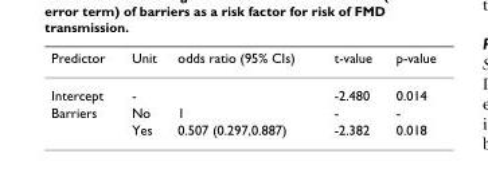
<table><thead><tr><td>Predictor</td><td>Unit</td><td>odds ratio (95% CIs)</td><td>t-value</td><td>p-value</td></tr></thead><tbody><tr><td>Intercept</td><td>-</td><td></td><td>-2.480</td><td>0.014</td></tr><tr><td rowspan="2">Barriers</td><td>No</td><td>1</td><td>-</td><td>-</td></tr><tr><td>Yes</td><td>0.507 (0.297,0.887)</td><td>-2.382</td><td>0.018</td></tr></tbody></table>